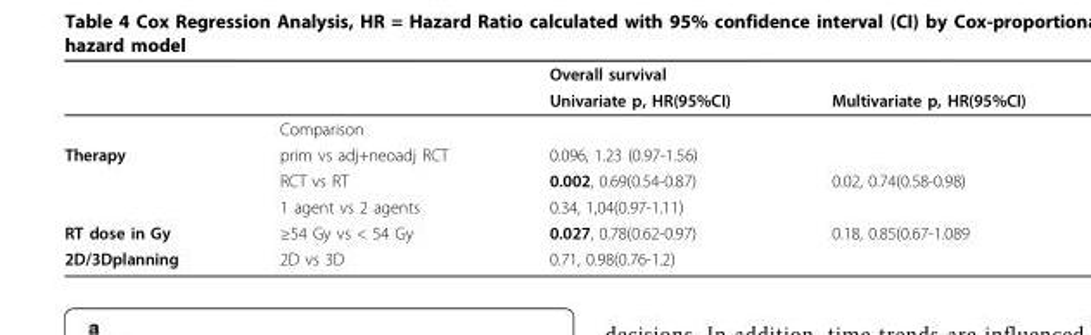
<table><thead><tr><td rowspan="2"></td><td rowspan="2"></td><td colspan="2">Overall survival</td></tr><tr><td>Univariate p, HR(95%CI)</td><td>Multivariate p, HR(95%CI)</td></tr></thead><tbody><tr><td></td><td>Comparison</td><td></td><td></td></tr><tr><td rowspan="3">Therapy</td><td>prim vs adj+neoadj RCT</td><td>0.096, 1.23 (0.97-1.56)</td><td></td></tr><tr><td>RCT vs RT</td><td>0.002, 0.69(0.54-0.87)</td><td>0.02, 0.74(0.58-0.98)</td></tr><tr><td>1 agent vs 2 agents</td><td>0.34, 1,04(0.97-1.11)</td><td></td></tr><tr><td>RT dose in Gy</td><td>≥54 Gy vs &lt; 54 Gy</td><td>0.027, 0.78(0.62-0.97)</td><td>0.18, 0.85(0.67-1.089</td></tr><tr><td>2D/3Dplanning</td><td>2D vs 3D</td><td>0.71, 0.98(0.76-1.2)</td><td></td></tr></tbody></table>